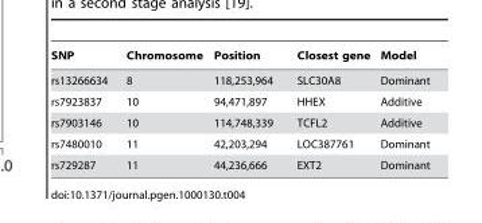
<table><thead><tr><td>SNP</td><td>Chromosome</td><td>Position</td><td>Closest gene</td><td>Model</td></tr></thead><tbody><tr><td>rs13266634</td><td>8</td><td>118,253,964</td><td>SLC30A8</td><td>Dominant</td></tr><tr><td>rs7923837</td><td>10</td><td>94,471,897</td><td>HHEX</td><td>Additive</td></tr><tr><td>rs7903146</td><td>10</td><td>114,748,339</td><td>TCFL2</td><td>Additive</td></tr><tr><td>rs7480010</td><td>11</td><td>42,203,294</td><td>LOC387761</td><td>Dominant</td></tr><tr><td>rs729287</td><td>11</td><td>44,236,666</td><td>EXT2</td><td>Dominant</td></tr></tbody></table>